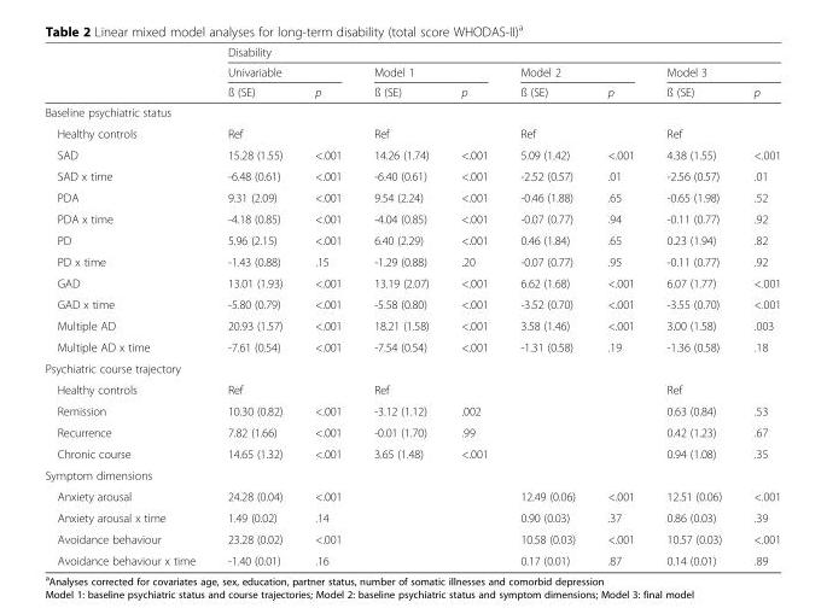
<table><thead><tr><td rowspan="3"></td><td colspan="8">Disability</td></tr><tr><td colspan="2">Univariable</td><td colspan="2">Model 1</td><td colspan="2">Model 2</td><td colspan="2">Model 3</td></tr><tr><td>ß (SE)</td><td>p</td><td>ß (SE)</td><td>p</td><td>ß (SE)</td><td>p</td><td>ß (SE)</td><td>p</td></tr></thead><tbody><tr><td colspan="9">Baseline psychiatric status</td></tr><tr><td>Healthy controls</td><td>Ref</td><td></td><td>Ref</td><td></td><td>Ref</td><td></td><td>Ref</td><td></td></tr><tr><td>SAD</td><td>15.28 (1.55)</td><td>&lt;.001</td><td>14.26 (1.74)</td><td>&lt;.001</td><td>5.09 (1.42)</td><td>&lt;.001</td><td>4.38 (1.55)</td><td>&lt;.001</td></tr><tr><td>SAD x time</td><td>-6.48 (0.61)</td><td>&lt;.001</td><td>-6.40 (0.61)</td><td>&lt;.001</td><td>-2.52 (0.57)</td><td>.01</td><td>-2.56 (0.57)</td><td>.01</td></tr><tr><td>PDA</td><td>9.31 (2.09)</td><td>&lt;.001</td><td>9.54 (2.24)</td><td>&lt;.001</td><td>-0.46 (1.88)</td><td>.65</td><td>-0.65 (1.98)</td><td>.52</td></tr><tr><td>PDA x time</td><td>-4.18 (0.85)</td><td>&lt;.001</td><td>-4.04 (0.85)</td><td>&lt;.001</td><td>-0.07 (0.77)</td><td>.94</td><td>-0.11 (0.77)</td><td>.92</td></tr><tr><td>PD</td><td>5.96 (2.15)</td><td>&lt;.001</td><td>6.40 (2.29)</td><td>&lt;.001</td><td>0.46 (1.84)</td><td>.65</td><td>0.23 (1.94)</td><td>.82</td></tr><tr><td>PD x time</td><td>-1.43 (0.88)</td><td>.15</td><td>-1.29 (0.88)</td><td>.20</td><td>-0.07 (0.77)</td><td>.95</td><td>-0.11 (0.77)</td><td>.92</td></tr><tr><td>GAD</td><td>13.01 (1.93)</td><td>&lt;.001</td><td>13.19 (2.07)</td><td>&lt;.001</td><td>6.62 (1.68)</td><td>&lt;.001</td><td>6.07 (1.77)</td><td>&lt;.001</td></tr><tr><td>GAD x time</td><td>-5.80 (0.79)</td><td>&lt;.001</td><td>-5.58 (0.80)</td><td>&lt;.001</td><td>-3.52 (0.70)</td><td>&lt;.001</td><td>-3.55 (0.70)</td><td>&lt;.001</td></tr><tr><td>Multiple AD</td><td>20.93 (1.57)</td><td>&lt;.001</td><td>18.21 (1.58)</td><td>&lt;.001</td><td>3.58 (1.46)</td><td>&lt;.001</td><td>3.00 (1.58)</td><td>.003</td></tr><tr><td>Multiple AD x time</td><td>-7.61 (0.54)</td><td>&lt;.001</td><td>-7.54 (0.54)</td><td>&lt;.001</td><td>-1.31 (0.58)</td><td>.19</td><td>-1.36 (0.58)</td><td>.18</td></tr><tr><td colspan="9">Psychiatric course trajectory</td></tr><tr><td>Healthy controls</td><td>Ref</td><td></td><td>Ref</td><td></td><td></td><td></td><td>Ref</td><td></td></tr><tr><td>Remission</td><td>10.30 (0.82)</td><td>&lt;.001</td><td>-3.12 (1.12)</td><td>.002</td><td></td><td></td><td>0.63 (0.84)</td><td>.53</td></tr><tr><td>Recurrence</td><td>7.82 (1.66)</td><td>&lt;.001</td><td>-0.01 (1.70)</td><td>.99</td><td></td><td></td><td>0.42 (1.23)</td><td>.67</td></tr><tr><td>Chronic course</td><td>14.65 (1.32)</td><td>&lt;.001</td><td>3.65 (1.48)</td><td>&lt;.001</td><td></td><td></td><td>0.94 (1.08)</td><td>.35</td></tr><tr><td colspan="9">Symptom dimensions</td></tr><tr><td>Anxiety arousal</td><td>24.28 (0.04)</td><td>&lt;.001</td><td></td><td></td><td>12.49 (0.06)</td><td>&lt;.001</td><td>12.51 (0.06)</td><td>&lt;.001</td></tr><tr><td>Anxiety arousal x time</td><td>1.49 (0.02)</td><td>.14</td><td></td><td></td><td>0.90 (0.03)</td><td>.37</td><td>0.86 (0.03)</td><td>.39</td></tr><tr><td>Avoidance behaviour</td><td>23.28 (0.02)</td><td>&lt;.001</td><td></td><td></td><td>10.58 (0.03)</td><td>&lt;.001</td><td>10.57 (0.03)</td><td>&lt;.001</td></tr><tr><td>Avoidance behaviour x time</td><td>-1.40 (0.01)</td><td>.16</td><td></td><td></td><td>0.17 (0.01)</td><td>.87</td><td>0.14 (0.01)</td><td>.89</td></tr></tbody></table>